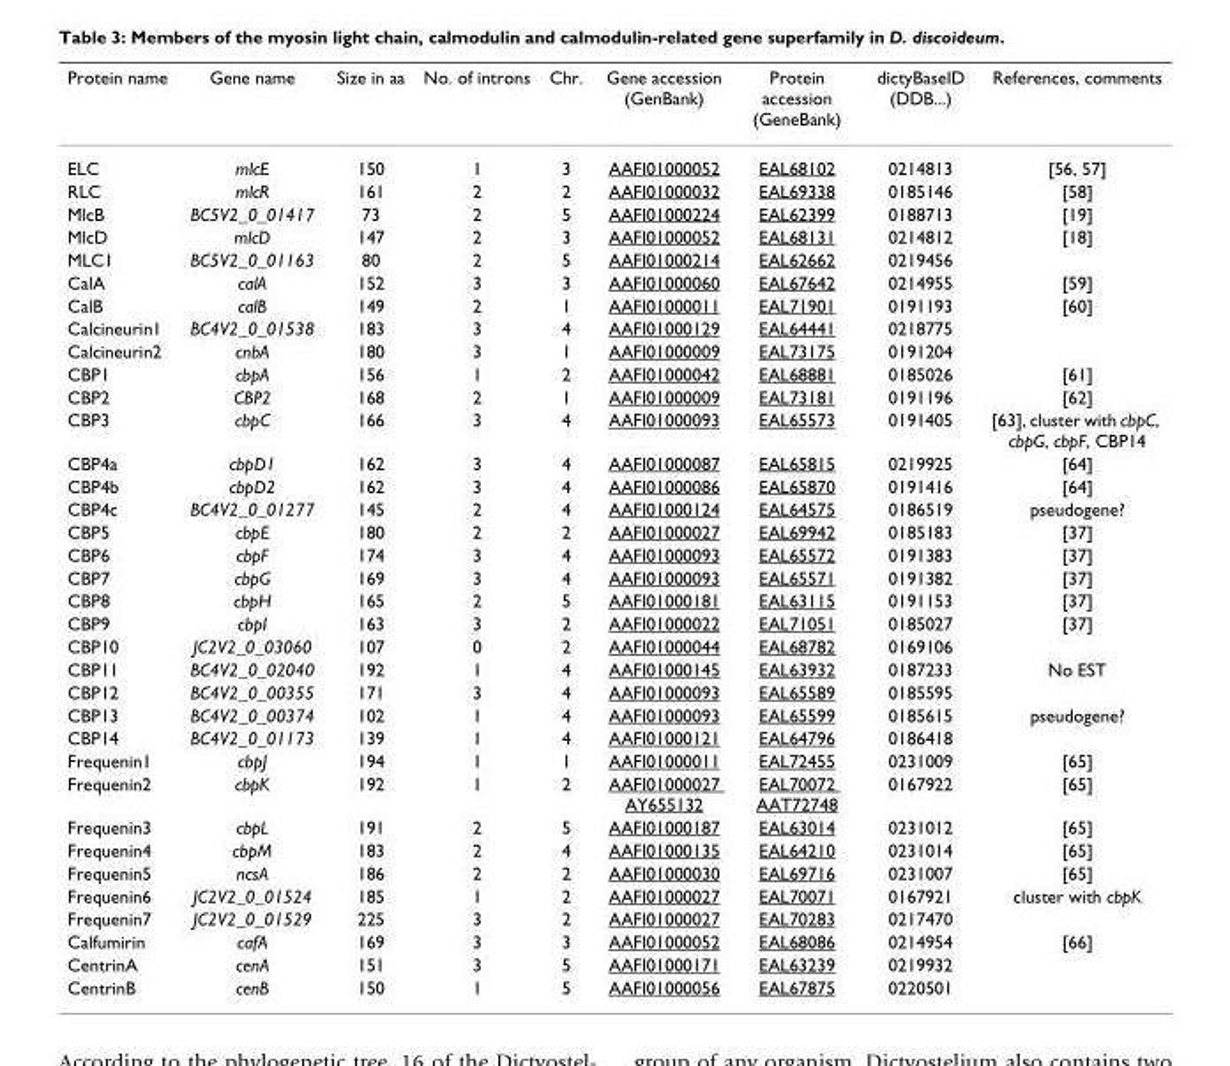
<table><thead><tr><td>Protein name</td><td>Gene name</td><td>Size in aa</td><td>No. of introns</td><td>Chr.</td><td>Gene accession (GenBank)</td><td>Protein accession (GeneBank)</td><td>dictyBaseID (DDB...)</td><td>References, comments</td></tr></thead><tbody><tr><td>ELC</td><td>mlcE</td><td>150</td><td>1</td><td>3</td><td>AAFI01000052</td><td>EAL68102</td><td>0214813</td><td>[56, 57]</td></tr><tr><td>RLC</td><td>mlcR</td><td>161</td><td>2</td><td>2</td><td>AAFI01000032</td><td>EAL69338</td><td>0185146</td><td>[58]</td></tr><tr><td>MlcB</td><td>BC5V2_0_01417</td><td>73</td><td>2</td><td>5</td><td>AAFI01000224</td><td>EAL62399</td><td>0188713</td><td>[19]</td></tr><tr><td>MlcD</td><td>mlcD</td><td>147</td><td>2</td><td>3</td><td>AAFI01000052</td><td>EAL68131</td><td>0214812</td><td>[18]</td></tr><tr><td>MLC1</td><td>BC5V2_0_01163</td><td>80</td><td>2</td><td>5</td><td>AAFI01000214</td><td>EAL62662</td><td>0219456</td><td></td></tr><tr><td>CalA</td><td>calA</td><td>152</td><td>3</td><td>3</td><td>AAFI01000060</td><td>EAL67642</td><td>0214955</td><td>[59]</td></tr><tr><td>CalB</td><td>calB</td><td>149</td><td>2</td><td>1</td><td>AAFI01000011</td><td>EAL71901</td><td>0191193</td><td>[60]</td></tr><tr><td>Calcineurin1</td><td>BC4V2_0_01538</td><td>183</td><td>3</td><td>4</td><td>AAFI01000129</td><td>EAL64441</td><td>0218775</td><td></td></tr><tr><td>Calcineurin2</td><td>cnbA</td><td>180</td><td>3</td><td>1</td><td>AAFI01000009</td><td>EAL73175</td><td>0191204</td><td></td></tr><tr><td>CBP1</td><td>cbpA</td><td>156</td><td>1</td><td>2</td><td>AAFI01000042</td><td>EAL68881</td><td>0185026</td><td>[61]</td></tr><tr><td>CBP2</td><td>CBP2</td><td>168</td><td>2</td><td>1</td><td>AAFI01000009</td><td>EAL73181</td><td>0191196</td><td>[62]</td></tr><tr><td>CBP3</td><td>cbpC</td><td>166</td><td>3</td><td>4</td><td>AAFI01000093</td><td>EAL65573</td><td>0191405</td><td>[63], cluster with cbpC, cbpG, cbpF, CBP14</td></tr><tr><td>CBP4a</td><td>cbpD1</td><td>162</td><td>3</td><td>4</td><td>AAFI01000087</td><td>EAL65815</td><td>0219925</td><td>[64]</td></tr><tr><td>CBP4b</td><td>cbpD2</td><td>162</td><td>3</td><td>4</td><td>AAFI01000086</td><td>EAL65870</td><td>0191416</td><td>[64]</td></tr><tr><td>CBP4c</td><td>BC4V2_0_01277</td><td>145</td><td>2</td><td>4</td><td>AAFI01000124</td><td>EAL64575</td><td>0186519</td><td>pseudogene?</td></tr><tr><td>CBP5</td><td>cbpE</td><td>180</td><td>2</td><td>2</td><td>AAFI01000027</td><td>EAL69942</td><td>0185183</td><td>[37]</td></tr><tr><td>CBP6</td><td>cbpF</td><td>174</td><td>3</td><td>4</td><td>AAFI01000093</td><td>EAL65572</td><td>0191383</td><td>[37]</td></tr><tr><td>CBP7</td><td>cbpG</td><td>169</td><td>3</td><td>4</td><td>AAFI01000093</td><td>EAL65571</td><td>0191382</td><td>[37]</td></tr><tr><td>CBP8</td><td>cbpH</td><td>165</td><td>2</td><td>5</td><td>AAFI01000181</td><td>EAL63115</td><td>0191153</td><td>[37]</td></tr><tr><td>CBP9</td><td>cbpI</td><td>163</td><td>3</td><td>2</td><td>AAFI01000022</td><td>EAL71051</td><td>0185027</td><td>[37]</td></tr><tr><td>CBP10</td><td>JC2V2_0_03060</td><td>107</td><td>0</td><td>2</td><td>AAFI01000044</td><td>EAL68782</td><td>0169106</td><td></td></tr><tr><td>CBP11</td><td>BC4V2_0_02040</td><td>192</td><td>1</td><td>4</td><td>AAFI01000145</td><td>EAL63932</td><td>0187233</td><td>No EST</td></tr><tr><td>CBP12</td><td>BC4V2_0_00355</td><td>171</td><td>3</td><td>4</td><td>AAFI01000093</td><td>EAL65589</td><td>0185595</td><td></td></tr><tr><td>CBP13</td><td>BC4V2_0_00374</td><td>102</td><td>1</td><td>4</td><td>AAFI01000093</td><td>EAL65599</td><td>0185615</td><td>pseudogene?</td></tr><tr><td>CBP14</td><td>BC4V2_0_01173</td><td>139</td><td>1</td><td>4</td><td>AAFI01000121</td><td>EAL64796</td><td>0186418</td><td></td></tr><tr><td>Frequenin1</td><td>cbpJ</td><td>194</td><td>1</td><td>1</td><td>AAFI01000011</td><td>EAL72455</td><td>0231009</td><td>[65]</td></tr><tr><td>Frequenin2</td><td>cbpK</td><td>192</td><td>1</td><td>2</td><td>AAFI01000027 AY655132</td><td>EAL70072 AAT72748</td><td>0167922</td><td>[65]</td></tr><tr><td>Frequenin3</td><td>cbpL</td><td>191</td><td>2</td><td>5</td><td>AAFI01000187</td><td>EAL63014</td><td>0231012</td><td>[65]</td></tr><tr><td>Frequenin4</td><td>cbpM</td><td>183</td><td>2</td><td>4</td><td>AAFI01000135</td><td>EAL64210</td><td>0231014</td><td>[65]</td></tr><tr><td>Frequenin5</td><td>ncsA</td><td>186</td><td>2</td><td>2</td><td>AAFI01000030</td><td>EAL69716</td><td>0231007</td><td>[65]</td></tr><tr><td>Frequenin6</td><td>JC2V2_0_01524</td><td>185</td><td>1</td><td>2</td><td>AAFI01000027</td><td>EAL70071</td><td>0167921</td><td>cluster with cbpK</td></tr><tr><td>Frequenin7</td><td>JC2V2_0_01529</td><td>225</td><td>3</td><td>2</td><td>AAFI01000027</td><td>EAL70283</td><td>0217470</td><td></td></tr><tr><td>Calfumirin</td><td>cafA</td><td>169</td><td>3</td><td>3</td><td>AAFI01000052</td><td>EAL68086</td><td>0214954</td><td>[66]</td></tr><tr><td>CentrinA</td><td>cenA</td><td>151</td><td>3</td><td>5</td><td>AAFI01000171</td><td>EAL63239</td><td>0219932</td><td></td></tr><tr><td>CentrinB</td><td>cenB</td><td>150</td><td>1</td><td>5</td><td>AAFI01000056</td><td>EAL67875</td><td>0220501</td><td></td></tr></tbody></table>